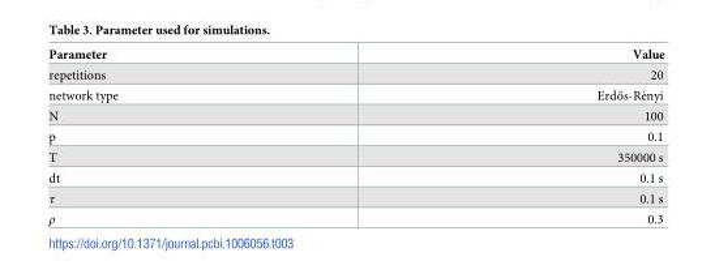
<table><thead><tr><td>Parameter</td><td>Value</td></tr></thead><tbody><tr><td>repetitions</td><td>20</td></tr><tr><td>network type</td><td>Erdős-Re´nyi</td></tr><tr><td>N</td><td>100</td></tr><tr><td>p</td><td>0.1</td></tr><tr><td>T</td><td>350000 s</td></tr><tr><td>dt</td><td>0.1 s</td></tr><tr><td>τ</td><td>0.1 s</td></tr><tr><td>ρ</td><td>0.3</td></tr></tbody></table>